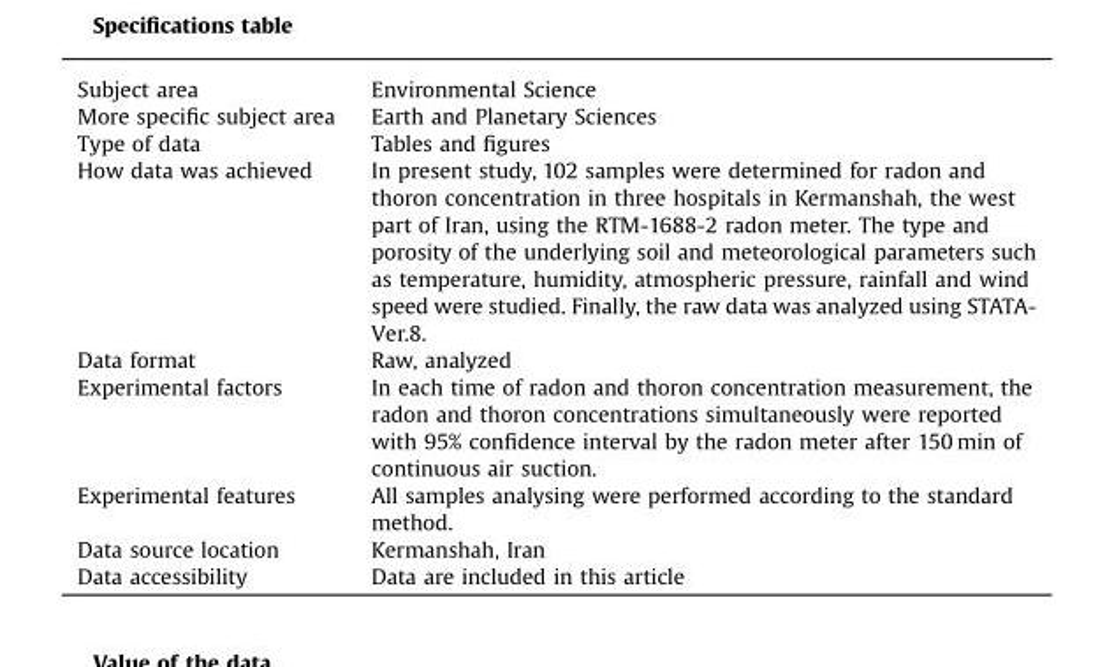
<table><tbody><tr><td>Subject area</td><td>Environmental Science</td></tr><tr><td>More specific subject area</td><td>Earth and Planetary Sciences</td></tr><tr><td>Type of data</td><td>Tables and figures</td></tr><tr><td>How data was achieved</td><td>In present study, 102 samples were determined for radon and thoron concentration in three hospitals in Kermanshah, the west part of Iran, using the RTM-1688-2 radon meter. The type and porosity of the underlying soil and meteorological parameters such as temperature, humidity, atmospheric pressure, rainfall and wind speed were studied. Finally, the raw data was analyzed using STATA- Ver.8.</td></tr><tr><td>Data format</td><td>Raw, analyzed</td></tr><tr><td>Experimental factors</td><td>In each time of radon and thoron concentration measurement, the radon and thoron concentrations simultaneously were reported with 95% confidence interval by the radon meter after 150 min of continuous air suction.</td></tr><tr><td>Experimental features</td><td>All samples analysing were performed according to the standard method.</td></tr><tr><td>Data source location</td><td>Kermanshah, Iran</td></tr><tr><td>Data accessibility</td><td>Data are included in this article</td></tr></tbody></table>